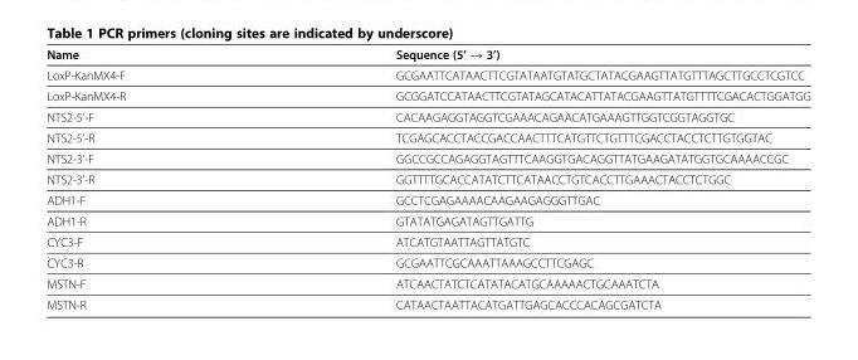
<table><thead><tr><td>Name</td><td>Sequence (5’ → 3’)</td></tr></thead><tbody><tr><td>LoxP-KanMX4-F</td><td>GCGAATTCATAACTTCGTATAATGTATGCTATACGAAGTTATGTTTAGCTTGCCTCGTCC</td></tr><tr><td>LoxP-KanMX4-R</td><td>GCGGATCCATAACTTCGTATAGCATACATTATACGAAGTTATGTTTTCGACACTGGATGG</td></tr><tr><td>NTS2-5’-F</td><td>CACAAGAGGTAGGTCGAAACAGAACATGAAAGTTGGTCGGTAGGTGC</td></tr><tr><td>NTS2-5’-R</td><td>TCGAGCACCTACCGACCAACTTTCATGTTCTGTTTCGACCTACCTCTTGTGGTAC</td></tr><tr><td>NTS2-3’-F</td><td>GGCCGCCAGAGGTAGTTTCAAGGTGACAGGTTATGAAGATATGGTGCAAAACCGC</td></tr><tr><td>NTS2-3’-R</td><td>GGTTTTGCACCATATCTTCATAACCTGTCACCTTGAAACTACCTCTGGC</td></tr><tr><td>ADH1-F</td><td>GCCTCGAGAAAACAAGAAGAGGGTTGAC</td></tr><tr><td>ADH1-R</td><td>GTATATGAGATAGTTGATTG</td></tr><tr><td>CYC3-F</td><td>ATCATGTAATTAGTTATGTC</td></tr><tr><td>CYC3-R</td><td>GCGAATTCGCAAATTAAAGCCTTCGAGC</td></tr><tr><td>MSTN-F</td><td>ATCAACTATCTCATATACATGCAAAAACTGCAAATCTA</td></tr><tr><td>MSTN-R</td><td>CATAACTAATTACATGATTGAGCACCCACAGCGATCTA</td></tr></tbody></table>